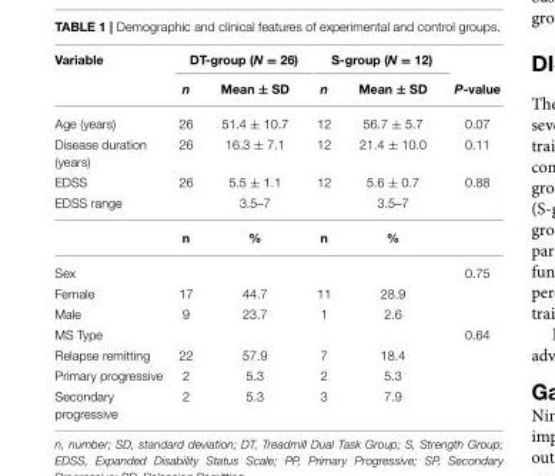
<table><thead><tr><td rowspan="2">Variable</td><td colspan="2">DT-group (N = 26)</td><td colspan="2">S-group (N = 12)</td><td rowspan="2">P-value</td></tr><tr><td>n</td><td>Mean ± SD</td><td>n</td><td>Mean ± SD</td></tr></thead><tbody><tr><td>Age (years)</td><td>26</td><td>51.4 ± 10.7</td><td>12</td><td>56.7 ± 5.7</td><td>0.07</td></tr><tr><td>Disease duration (years)</td><td>26</td><td>16.3 ± 7.1</td><td>12</td><td>21.4 ± 10.0</td><td>0.11</td></tr><tr><td>EDSS</td><td>26</td><td>5.5 ± 1.1</td><td>12</td><td>5.6 ± 0.7</td><td>0.88</td></tr><tr><td rowspan="2">EDSS range</td><td></td><td>3.5–7</td><td></td><td>3.5–7</td><td></td></tr><tr><td>n</td><td>%</td><td>n</td><td>%</td><td></td></tr><tr><td>Sex</td><td></td><td></td><td></td><td></td><td>0.75</td></tr><tr><td>Female</td><td>17</td><td>44.7</td><td>11</td><td>28.9</td><td></td></tr><tr><td>Male</td><td>9</td><td>23.7</td><td>1</td><td>2.6</td><td></td></tr><tr><td>MS Type</td><td></td><td></td><td></td><td></td><td>0.64</td></tr><tr><td>Relapse remitting</td><td>22</td><td>57.9</td><td>7</td><td>18.4</td><td></td></tr><tr><td>Primary progressive</td><td>2</td><td>5.3</td><td>2</td><td>5.3</td><td></td></tr><tr><td>Secondary progressive</td><td>2</td><td>5.3</td><td>3</td><td>7.9</td><td></td></tr></tbody></table>